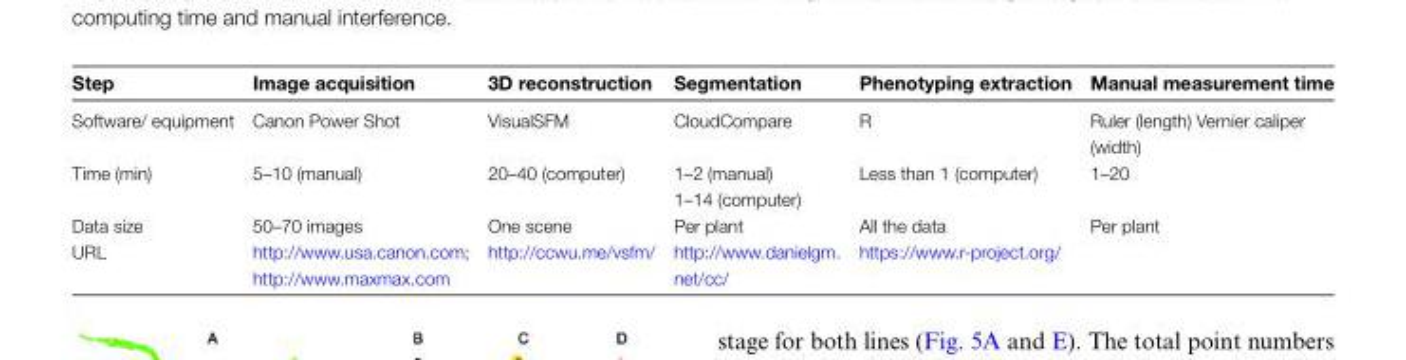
<table><thead><tr><td>Step</td><td>Image acquisition</td><td>3D reconstruction</td><td>Segmentation</td><td>Phenotyping extraction</td><td>Manual measurement time</td></tr></thead><tbody><tr><td>Software/ equipment</td><td>Canon Power Shot</td><td>VisualSFM</td><td>CloudCompare</td><td>R</td><td>Ruler (length) Vernier caliper (width)</td></tr><tr><td>Time (min)</td><td>5–10 (manual)</td><td>20–40 (computer)</td><td>1–2 (manual) 1–14 (computer)</td><td>Less than 1 (computer)</td><td>1–20</td></tr><tr><td>Data size</td><td>50–70 images</td><td>One scene</td><td>Per plant</td><td>All the data</td><td>Per plant</td></tr><tr><td>URL</td><td>http://www.usa.canon.com; http://www.maxmax.com</td><td>http://ccwu.me/vsfm/</td><td>http://www.danielgm. net/cc/</td><td>https://www.r-project.org/</td><td></td></tr></tbody></table>